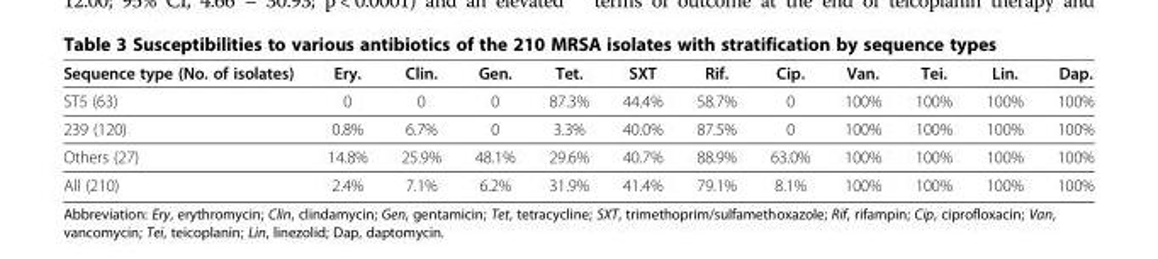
<table><thead><tr><td>Sequence type (No. of isolates)</td><td>Ery.</td><td>Clin.</td><td>Gen.</td><td>Tet.</td><td>SXT</td><td>Rif.</td><td>Cip.</td><td>Van.</td><td>Tei.</td><td>Lin.</td><td>Dap.</td></tr></thead><tbody><tr><td>ST5 (63)</td><td>0</td><td>0</td><td>0</td><td>87.3%</td><td>44.4%</td><td>58.7%</td><td>0</td><td>100%</td><td>100%</td><td>100%</td><td>100%</td></tr><tr><td>239 (120)</td><td>0.8%</td><td>6.7%</td><td>0</td><td>3.3%</td><td>40.0%</td><td>87.5%</td><td>0</td><td>100%</td><td>100%</td><td>100%</td><td>100%</td></tr><tr><td>Others (27)</td><td>14.8%</td><td>25.9%</td><td>48.1%</td><td>29.6%</td><td>40.7%</td><td>88.9%</td><td>63.0%</td><td>100%</td><td>100%</td><td>100%</td><td>100%</td></tr><tr><td>All (210)</td><td>2.4%</td><td>7.1%</td><td>6.2%</td><td>31.9%</td><td>41.4%</td><td>79.1%</td><td>8.1%</td><td>100%</td><td>100%</td><td>100%</td><td>100%</td></tr></tbody></table>